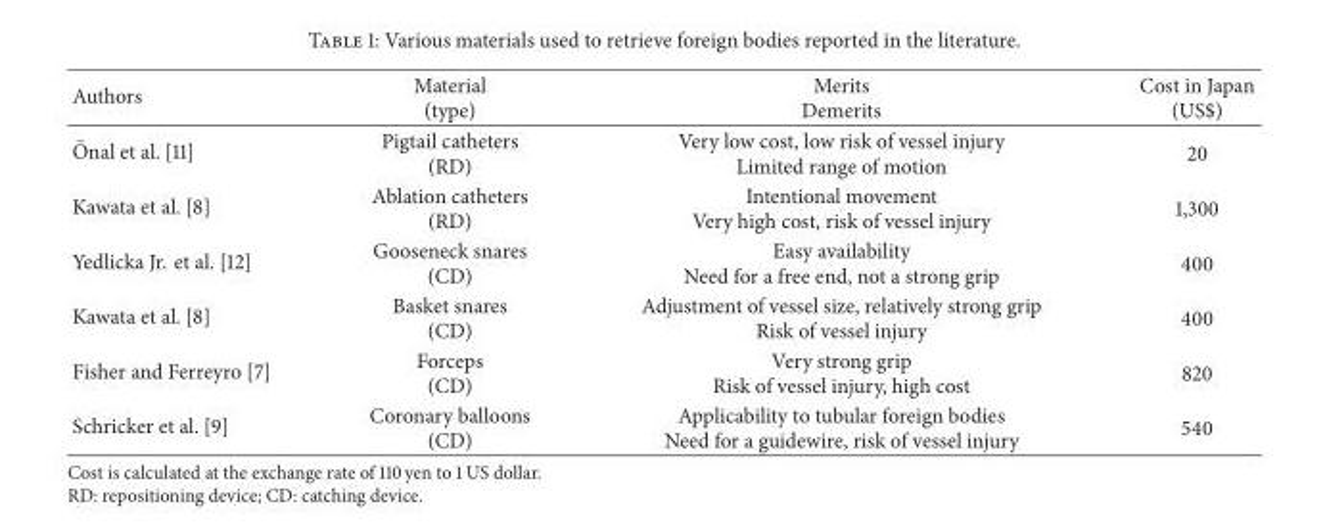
<table><thead><tr><td>Authors</td><td>Material (type)</td><td>Merits Demerits</td><td>Cost in Japan (US$)</td></tr></thead><tbody><tr><td>¨Onal et al. [11]</td><td>Pigtail catheters (RD)</td><td>Very low cost, low risk of vessel injury Limited range of motion</td><td>20</td></tr><tr><td>Kawata et al. [8]</td><td>Ablation catheters (RD)</td><td>Intentional movement Very high cost, risk of vessel injury</td><td>1,300</td></tr><tr><td>Yedlicka Jr. et al. [12]</td><td>Gooseneck snares (CD)</td><td>Easy availability Need for a free end, not a strong grip</td><td>400</td></tr><tr><td>Kawata et al. [8]</td><td>Basket snares (CD)</td><td>Adjustment of vessel size, relatively strong grip Risk of vessel injury</td><td>400</td></tr><tr><td>Fisher and Ferreyro [7]</td><td>Forceps (CD)</td><td>Very strong grip Risk of vessel injury, high cost</td><td>820</td></tr><tr><td>Schricker et al. [9]</td><td>Coronary balloons (CD)</td><td>Applicability to tubular foreign bodies Need for a guidewire, risk of vessel injury</td><td>540</td></tr></tbody></table>